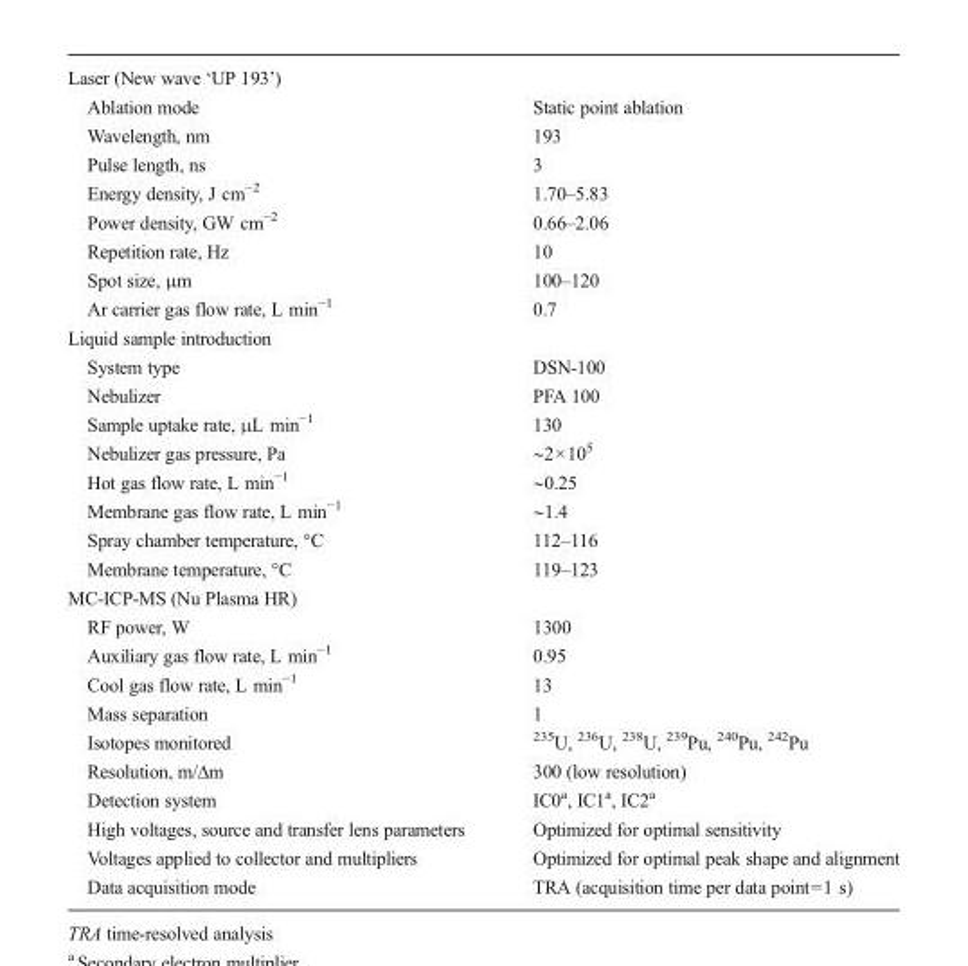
<table><tbody><tr><td colspan="2">Laser (New wave ‘UP 193’)</td></tr><tr><td>Ablation mode</td><td>Static point ablation</td></tr><tr><td>Wavelength, nm</td><td>193</td></tr><tr><td>Pulse length, ns</td><td>3</td></tr><tr><td>Energy density, J cm<sup>−2</sup></td><td>1.70–5.83</td></tr><tr><td>Power density, GW cm<sup>−2</sup></td><td>0.66–2.06</td></tr><tr><td>Repetition rate, Hz</td><td>10</td></tr><tr><td>Spot size, μm</td><td>100–120</td></tr><tr><td>Ar carrier gas flow rate, L min<sup>−1</sup></td><td>0.7</td></tr><tr><td colspan="2">Liquid sample introduction</td></tr><tr><td>System type</td><td>DSN-100</td></tr><tr><td>Nebulizer</td><td>PFA 100</td></tr><tr><td>Sample uptake rate, μL min<sup>−1</sup></td><td>130</td></tr><tr><td>Nebulizer gas pressure, Pa</td><td>∼2×10<sup>5</sup></td></tr><tr><td>Hot gas flow rate, L min<sup>−1</sup></td><td>∼0.25</td></tr><tr><td>Membrane gas flow rate, L min<sup>−1</sup></td><td>∼1.4</td></tr><tr><td>Spray chamber temperature, °C</td><td>112–116</td></tr><tr><td>Membrane temperature, °C</td><td>119–123</td></tr><tr><td colspan="2">MC-ICP-MS (Nu Plasma HR)</td></tr><tr><td>RF power, W</td><td>1300</td></tr><tr><td>Auxiliary gas flow rate, L min<sup>−1</sup></td><td>0.95</td></tr><tr><td>Cool gas flow rate, L min<sup>−1</sup></td><td>13</td></tr><tr><td>Mass separation</td><td>1</td></tr><tr><td>Isotopes monitored</td><td><sup>235</sup>U, <sup>236</sup>U, <sup>238</sup>U, <sup>239</sup>Pu, <sup>240</sup>Pu, <sup>242</sup>Pu</td></tr><tr><td>Resolution, m/Δm</td><td>300 (low resolution)</td></tr><tr><td>Detection system</td><td>IC0<sup>a</sup>, IC1<sup>a</sup>, IC2<sup>a</sup></td></tr><tr><td>High voltages, source and transfer lens parameters</td><td>Optimized for optimal sensitivity</td></tr><tr><td>Voltages applied to collector and multipliers</td><td>Optimized for optimal peak shape and alignment</td></tr><tr><td>Data acquisition mode</td><td>TRA (acquisition time per data point=1 s)</td></tr></tbody></table>